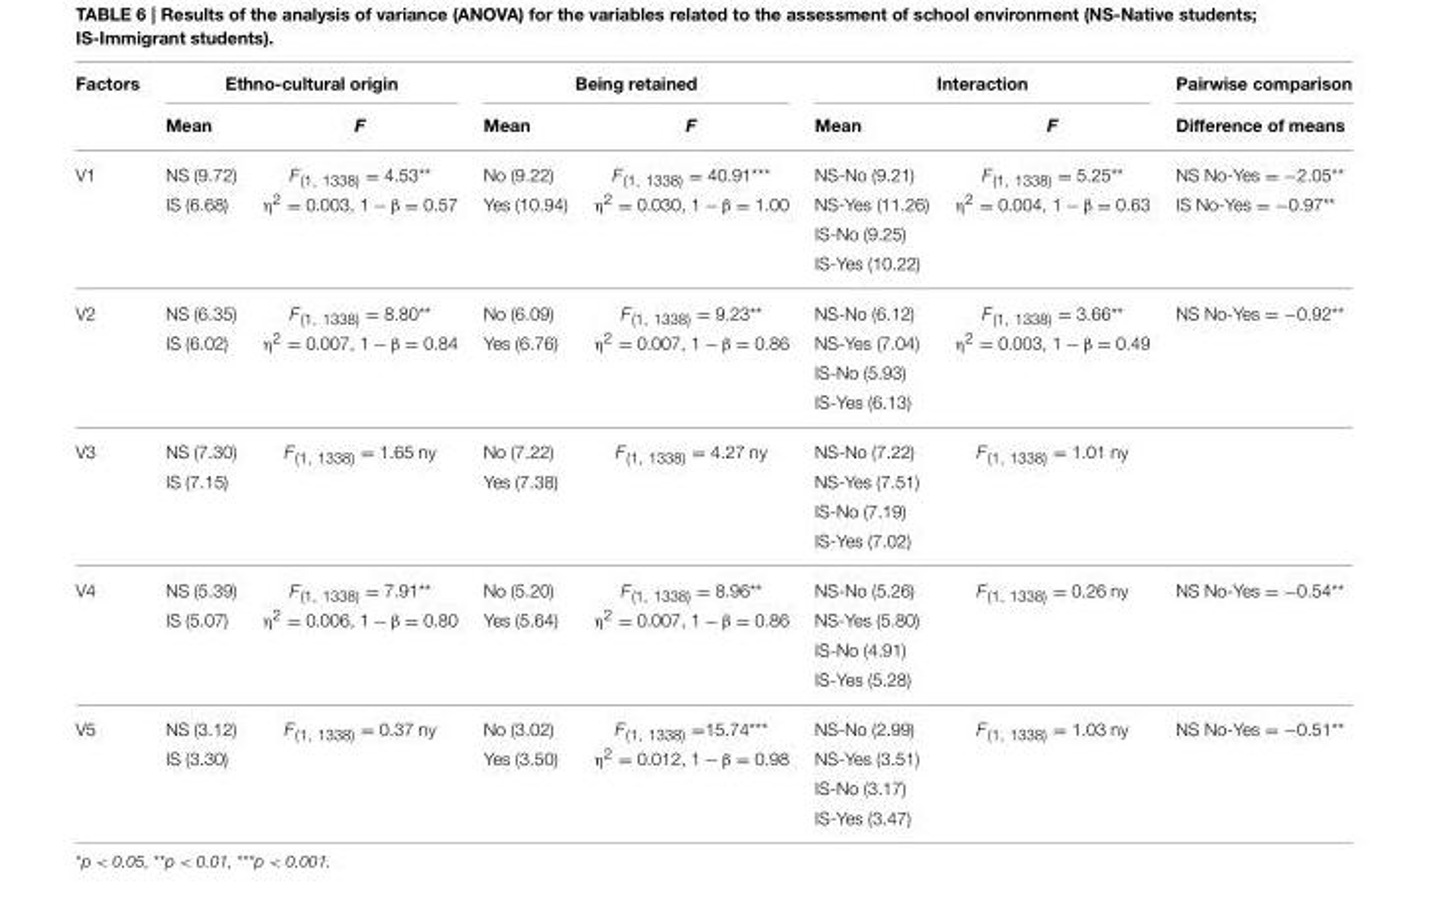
<table><thead><tr><td rowspan="2">Factors</td><td colspan="2">Ethno-cultural origin</td><td colspan="2">Being retained</td><td colspan="2">Interaction</td><td rowspan="2">Pairwise comparison Difference of means</td></tr><tr><td>Mean</td><td>F</td><td>Mean</td><td>F</td><td>Mean</td><td>F</td></tr></thead><tbody><tr><td rowspan="4">V1</td><td>NS (9.72)</td><td>F<sub>(1, 1338)</sub> = 4.53**</td><td>No (9.22)</td><td>F<sub>(1, 1338)</sub> = 40.91***</td><td>NS-No (9.21)</td><td>F<sub>(1, 1338)</sub> = 5.25**</td><td>NS No-Yes = −2.05**</td></tr><tr><td>IS (6.68)</td><td>η<sup>2</sup> = 0.003, 1 − β = 0.57</td><td>Yes (10.94)</td><td>η<sup>2</sup> = 0.030, 1 − β = 1.00</td><td>NS-Yes (11.26)</td><td>η<sup>2</sup> = 0.004, 1 − β = 0.63</td><td>IS No-Yes = −0.97**</td></tr><tr><td></td><td></td><td></td><td></td><td>IS-No (9.25)</td><td></td><td></td></tr><tr><td></td><td></td><td></td><td></td><td>IS-Yes (10.22)</td><td></td><td></td></tr><tr><td rowspan="4">V2</td><td>NS (6.35)</td><td>F<sub>(1, 1338)</sub> = 8.80**</td><td>No (6.09)</td><td>F<sub>(1, 1338)</sub> = 9.23**</td><td>NS-No (6.12)</td><td>F<sub>(1, 1338)</sub> = 3.66**</td><td>NS No-Yes = −0.92**</td></tr><tr><td>IS (6.02)</td><td>η<sup>2</sup> = 0.007, 1 − β = 0.84</td><td>Yes (6.76)</td><td>η<sup>2</sup> = 0.007, 1 − β = 0.86</td><td>NS-Yes (7.04)</td><td>η<sup>2</sup> = 0.003, 1 − β = 0.49</td><td></td></tr><tr><td></td><td></td><td></td><td></td><td>IS-No (5.93)</td><td></td><td></td></tr><tr><td></td><td></td><td></td><td></td><td>IS-Yes (6.13)</td><td></td><td></td></tr><tr><td rowspan="4">V3</td><td>NS (7.30)</td><td>F<sub>(1, 1338)</sub> = 1.65 ny</td><td>No (7.22)</td><td>F<sub>(1, 1338)</sub> = 4.27 ny</td><td>NS-No (7.22)</td><td>F<sub>(1, 1338)</sub> = 1.01 ny</td><td></td></tr><tr><td>IS (7.15)</td><td></td><td>Yes (7.38)</td><td></td><td>NS-Yes (7.51)</td><td></td><td></td></tr><tr><td></td><td></td><td></td><td></td><td>IS-No (7.19)</td><td></td><td></td></tr><tr><td></td><td></td><td></td><td></td><td>IS-Yes (7.02)</td><td></td><td></td></tr><tr><td rowspan="4">V4</td><td>NS (5.39)</td><td>F<sub>(1, 1338)</sub> = 7.91**</td><td>No (5.20)</td><td>F<sub>(1, 1338)</sub> = 8.96**</td><td>NS-No (5.26)</td><td>F<sub>(1, 1338)</sub> = 0.26 ny</td><td>NS No-Yes = −0.54**</td></tr><tr><td>IS (5.07)</td><td>η<sup>2</sup> = 0.006, 1 − β = 0.80</td><td>Yes (5.64)</td><td>η<sup>2</sup> = 0.007, 1 − β = 0.86</td><td>NS-Yes (5.80)</td><td></td><td></td></tr><tr><td></td><td></td><td></td><td></td><td>IS-No (4.91)</td><td></td><td></td></tr><tr><td></td><td></td><td></td><td></td><td>IS-Yes (5.28)</td><td></td><td></td></tr><tr><td rowspan="4">V5</td><td>NS (3.12)</td><td>F<sub>(1, 1338)</sub> = 0.37 ny</td><td>No (3.02)</td><td>F<sub>(1, 1338)</sub> =15.74***</td><td>NS-No (2.99)</td><td>F<sub>(1, 1338)</sub> = 1.03 ny</td><td>NS No-Yes = −0.51**</td></tr><tr><td>IS (3.30)</td><td></td><td>Yes (3.50)</td><td>η<sup>2</sup> = 0.012, 1 − β = 0.98</td><td>NS-Yes (3.51)</td><td></td><td></td></tr><tr><td></td><td></td><td></td><td></td><td>IS-No (3.17)</td><td></td><td></td></tr><tr><td></td><td></td><td></td><td></td><td>IS-Yes (3.47)</td><td></td><td></td></tr></tbody></table>